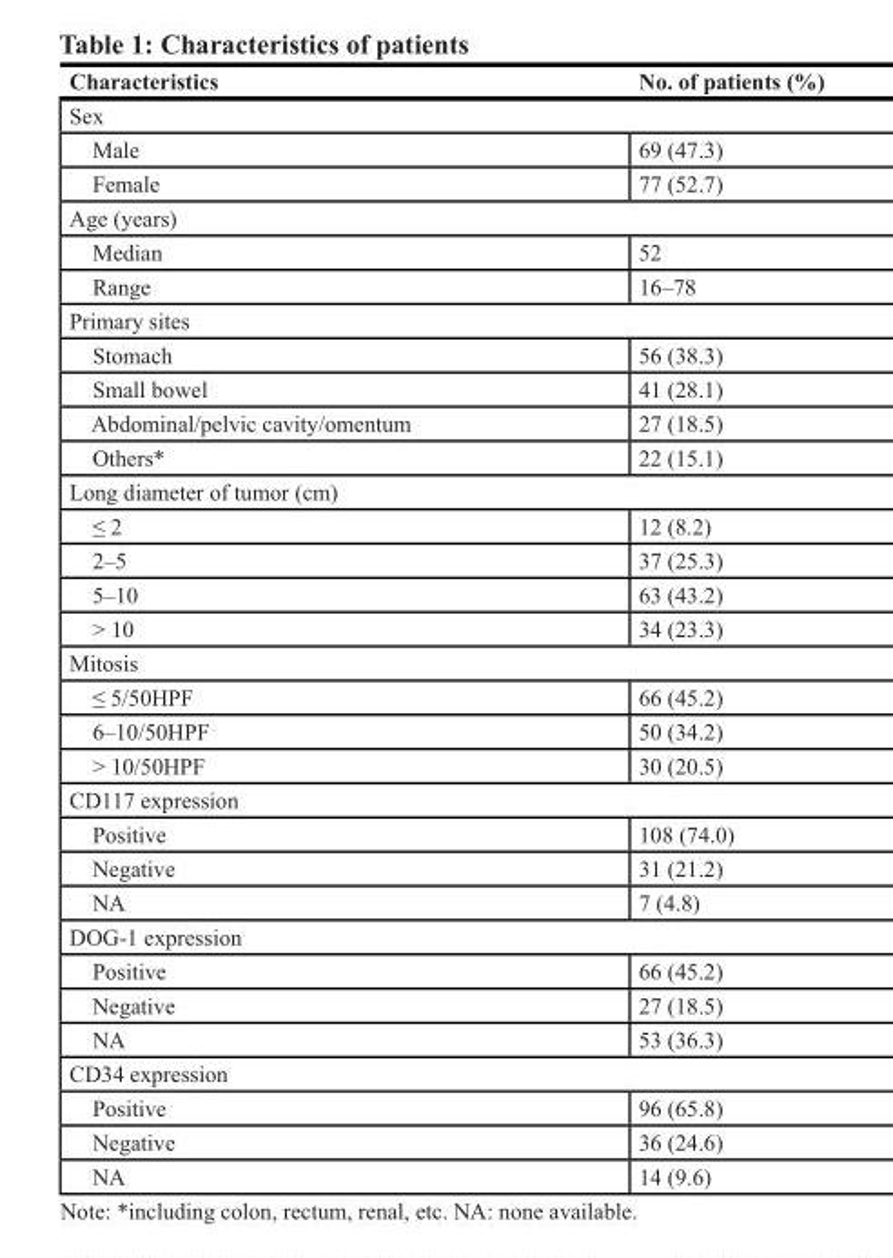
<table><thead><tr><td>Characteristics</td><td>No. of patients (%)</td></tr></thead><tbody><tr><td colspan="2">Sex</td></tr><tr><td>Male</td><td>69 (47.3)</td></tr><tr><td>Female</td><td>77 (52.7)</td></tr><tr><td colspan="2">Age (years)</td></tr><tr><td>Median</td><td>52</td></tr><tr><td>Range</td><td>16–78</td></tr><tr><td colspan="2">Primary sites</td></tr><tr><td>Stomach</td><td>56 (38.3)</td></tr><tr><td>Small bowel</td><td>41 (28.1)</td></tr><tr><td>Abdominal/pelvic cavity/omentum</td><td>27 (18.5)</td></tr><tr><td>Others*</td><td>22 (15.1)</td></tr><tr><td colspan="2">Long diameter of tumor (cm)</td></tr><tr><td>≤ 2</td><td>12 (8.2)</td></tr><tr><td>2–5</td><td>37 (25.3)</td></tr><tr><td>5–10</td><td>63 (43.2)</td></tr><tr><td>&gt; 10</td><td>34 (23.3)</td></tr><tr><td colspan="2">Mitosis</td></tr><tr><td>≤ 5/50HPF</td><td>66 (45.2)</td></tr><tr><td>6–10/50HPF</td><td>50 (34.2)</td></tr><tr><td>&gt; 10/50HPF</td><td>30 (20.5)</td></tr><tr><td colspan="2">CD117 expression</td></tr><tr><td>Positive</td><td>108 (74.0)</td></tr><tr><td>Negative</td><td>31 (21.2)</td></tr><tr><td>NA</td><td>7 (4.8)</td></tr><tr><td colspan="2">DOG-1 expression</td></tr><tr><td>Positive</td><td>66 (45.2)</td></tr><tr><td>Negative</td><td>27 (18.5)</td></tr><tr><td>NA</td><td>53 (36.3)</td></tr><tr><td colspan="2">CD34 expression</td></tr><tr><td>Positive</td><td>96 (65.8)</td></tr><tr><td>Negative</td><td>36 (24.6)</td></tr><tr><td>NA</td><td>14 (9.6)</td></tr></tbody></table>